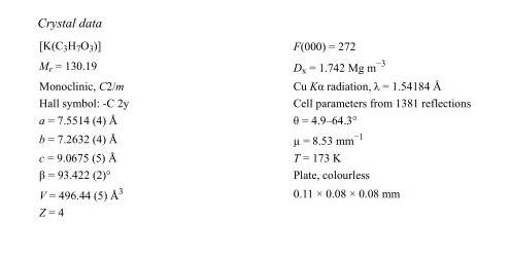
<table><tbody><tr><td>[K(C<sub>3</sub>H<sub>7</sub>O<sub>3</sub>)]</td><td>F(000) = 272</td></tr><tr><td>M<sub>r</sub> = 130.19</td><td>D<sub>x</sub> = 1.742 Mg m<sup>−3</sup></td></tr><tr><td>Monoclinic, C2/m</td><td>Cu Kα radiation, λ = 1.54184 Å</td></tr><tr><td>Hall symbol: -C 2y</td><td>Cell parameters from 1381 reflections</td></tr><tr><td>a = 7.5514 (4) Å</td><td>θ = 4.9–64.3°</td></tr><tr><td>b = 7.2632 (4) Å</td><td>µ = 8.53 mm<sup>−1</sup></td></tr><tr><td>c = 9.0675 (5) Å</td><td>T = 173 K</td></tr><tr><td>β = 93.422 (2)°</td><td>Plate, colourless</td></tr><tr><td>V = 496.44 (5) Å<sup>3</sup></td><td>0.11 × 0.08 × 0.08 mm</td></tr><tr><td>Z = 4</td><td></td></tr></tbody></table>